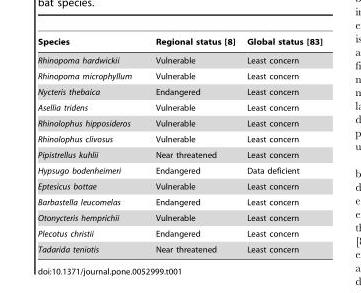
<table><thead><tr><td>Species</td><td>Regional status [8]</td><td>Global status [83]</td></tr></thead><tbody><tr><td>Rhinopoma hardwickii</td><td>Vulnerable</td><td>Least concern</td></tr><tr><td>Rhinopoma microphyllum</td><td>Vulnerable</td><td>Least concern</td></tr><tr><td>Nycteris thebaica</td><td>Endangered</td><td>Least concern</td></tr><tr><td>Asellia tridens</td><td>Vulnerable</td><td>Least concern</td></tr><tr><td>Rhinolophus hipposideros</td><td>Vulnerable</td><td>Least concern</td></tr><tr><td>Rhinolophus clivosus</td><td>Vulnerable</td><td>Least concern</td></tr><tr><td>Pipistrellus kuhlii</td><td>Near threatened</td><td>Least concern</td></tr><tr><td>Hypsugo bodenheimeri</td><td>Endangered</td><td>Data deficient</td></tr><tr><td>Eptesicus bottae</td><td>Vulnerable</td><td>Least concern</td></tr><tr><td>Barbastella leucomelas</td><td>Endangered</td><td>Least concern</td></tr><tr><td>Otonycteris hemprichii</td><td>Vulnerable</td><td>Least concern</td></tr><tr><td>Plecotus christii</td><td>Endangered</td><td>Least concern</td></tr><tr><td>Tadarida teniotis</td><td>Near threatened</td><td>Least concern</td></tr></tbody></table>